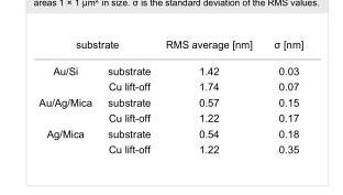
<table><tbody><tr><td colspan="2">substrate</td><td>RMS average [nm]</td><td>σ [nm]</td></tr><tr><td rowspan="2">Au/Si</td><td>substrate</td><td>1.42</td><td>0.03</td></tr><tr><td>Cu lift-off</td><td>1.74</td><td>0.07</td></tr><tr><td rowspan="2">Au/Ag/Mica</td><td>substrate</td><td>0.57</td><td>0.15</td></tr><tr><td>Cu lift-off</td><td>1.22</td><td>0.17</td></tr><tr><td rowspan="2">Ag/Mica</td><td>substrate</td><td>0.54</td><td>0.18</td></tr><tr><td>Cu lift-off</td><td>1.22</td><td>0.35</td></tr></tbody></table>